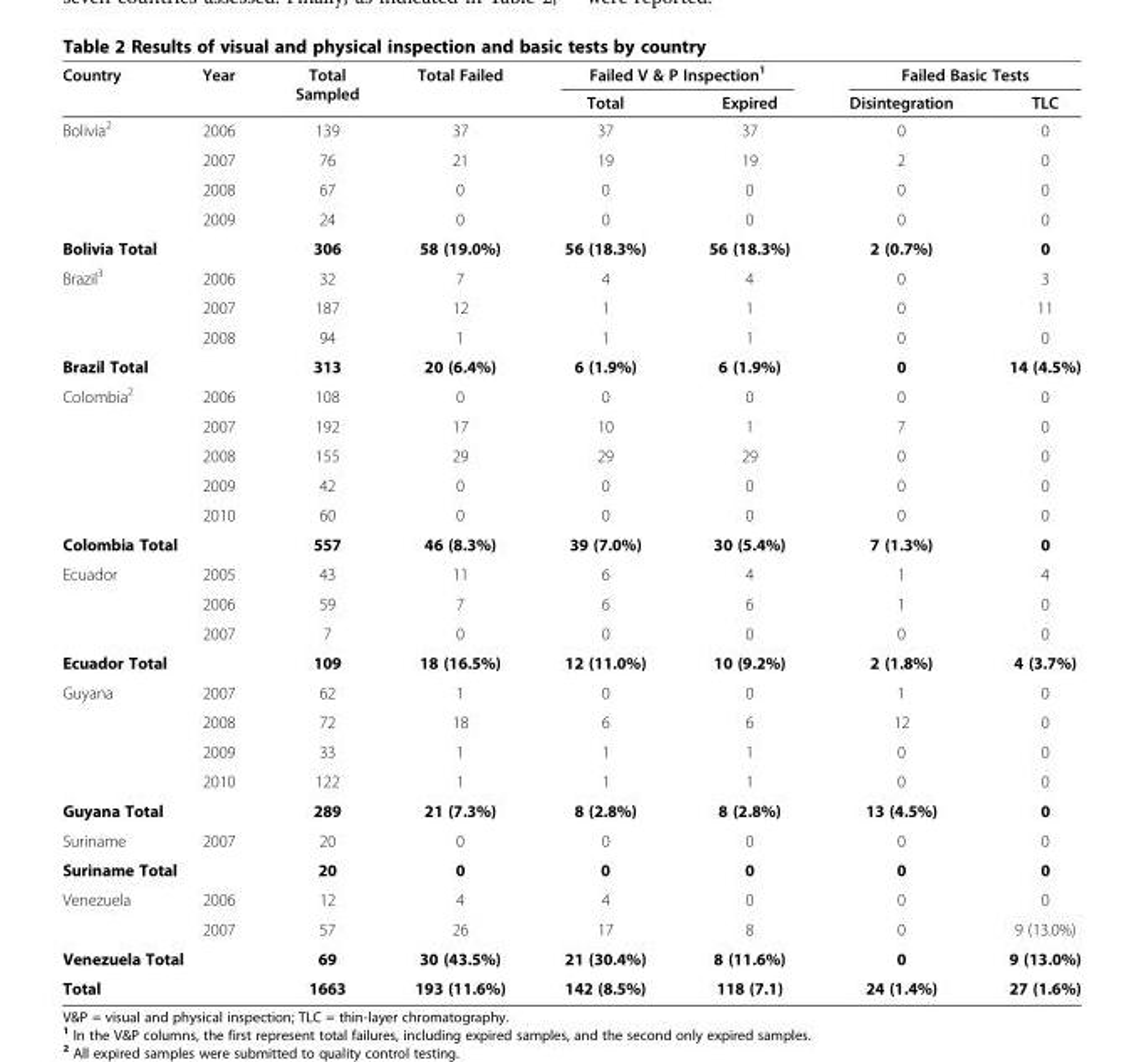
<table><thead><tr><td rowspan="2">Country</td><td rowspan="2">Year</td><td rowspan="2">Total Sampled</td><td rowspan="2">Total Failed</td><td colspan="2">Failed V &amp; P Inspection<sup>1</sup></td><td colspan="2">Failed Basic Tests</td></tr><tr><td>Total</td><td>Expired</td><td>Disintegration</td><td>TLC</td></tr></thead><tbody><tr><td rowspan="4">Bolivia<sup>2</sup></td><td>2006</td><td>139</td><td>37</td><td>37</td><td>37</td><td>0</td><td>0</td></tr><tr><td>2007</td><td>76</td><td>21</td><td>19</td><td>19</td><td>2</td><td>0</td></tr><tr><td>2008</td><td>67</td><td>0</td><td>0</td><td>0</td><td>0</td><td>0</td></tr><tr><td>2009</td><td>24</td><td>0</td><td>0</td><td>0</td><td>0</td><td>0</td></tr><tr><td colspan="2">Bolivia Total</td><td>306</td><td>58 (19.0%)</td><td>56 (18.3%)</td><td>56 (18.3%)</td><td>2 (0.7%)</td><td>0</td></tr><tr><td rowspan="3">Brazil<sup>3</sup></td><td>2006</td><td>32</td><td>7</td><td>4</td><td>4</td><td>0</td><td>3</td></tr><tr><td>2007</td><td>187</td><td>12</td><td>1</td><td>1</td><td>0</td><td>11</td></tr><tr><td>2008</td><td>94</td><td>1</td><td>1</td><td>1</td><td>0</td><td>0</td></tr><tr><td colspan="2">Brazil Total</td><td>313</td><td>20 (6.4%)</td><td>6 (1.9%)</td><td>6 (1.9%)</td><td>0</td><td>14 (4.5%)</td></tr><tr><td rowspan="5">Colombia<sup>2</sup></td><td>2006</td><td>108</td><td>0</td><td>0</td><td>0</td><td>0</td><td>0</td></tr><tr><td>2007</td><td>192</td><td>17</td><td>10</td><td>1</td><td>7</td><td>0</td></tr><tr><td>2008</td><td>155</td><td>29</td><td>29</td><td>29</td><td>0</td><td>0</td></tr><tr><td>2009</td><td>42</td><td>0</td><td>0</td><td>0</td><td>0</td><td>0</td></tr><tr><td>2010</td><td>60</td><td>0</td><td>0</td><td>0</td><td>0</td><td>0</td></tr><tr><td colspan="2">Colombia Total</td><td>557</td><td>46 (8.3%)</td><td>39 (7.0%)</td><td>30 (5.4%)</td><td>7 (1.3%)</td><td>0</td></tr><tr><td rowspan="3">Ecuador</td><td>2005</td><td>43</td><td>11</td><td>6</td><td>4</td><td>1</td><td>4</td></tr><tr><td>2006</td><td>59</td><td>7</td><td>6</td><td>6</td><td>1</td><td>0</td></tr><tr><td>2007</td><td>7</td><td>0</td><td>0</td><td>0</td><td>0</td><td>0</td></tr><tr><td colspan="2">Ecuador Total</td><td>109</td><td>18 (16.5%)</td><td>12 (11.0%)</td><td>10 (9.2%)</td><td>2 (1.8%)</td><td>4 (3.7%)</td></tr><tr><td rowspan="4">Guyana</td><td>2007</td><td>62</td><td>1</td><td>0</td><td>0</td><td>1</td><td>0</td></tr><tr><td>2008</td><td>72</td><td>18</td><td>6</td><td>6</td><td>12</td><td>0</td></tr><tr><td>2009</td><td>33</td><td>1</td><td>1</td><td>1</td><td>0</td><td>0</td></tr><tr><td>2010</td><td>122</td><td>1</td><td>1</td><td>1</td><td>0</td><td>0</td></tr><tr><td colspan="2">Guyana Total</td><td>289</td><td>21 (7.3%)</td><td>8 (2.8%)</td><td>8 (2.8%)</td><td>13 (4.5%)</td><td>0</td></tr><tr><td>Suriname</td><td>2007</td><td>20</td><td>0</td><td>0</td><td>0</td><td>0</td><td>0</td></tr><tr><td colspan="2">Suriname Total</td><td>20</td><td>0</td><td>0</td><td>0</td><td>0</td><td>0</td></tr><tr><td rowspan="2">Venezuela</td><td>2006</td><td>12</td><td>4</td><td>4</td><td>0</td><td>0</td><td>0</td></tr><tr><td>2007</td><td>57</td><td>26</td><td>17</td><td>8</td><td>0</td><td>9 (13.0%)</td></tr><tr><td colspan="2">Venezuela Total</td><td>69</td><td>30 (43.5%)</td><td>21 (30.4%)</td><td>8 (11.6%)</td><td>0</td><td>9 (13.0%)</td></tr><tr><td>Total</td><td></td><td>1663</td><td>193 (11.6%)</td><td>142 (8.5%)</td><td>118 (7.1)</td><td>24 (1.4%)</td><td>27 (1.6%)</td></tr></tbody></table>